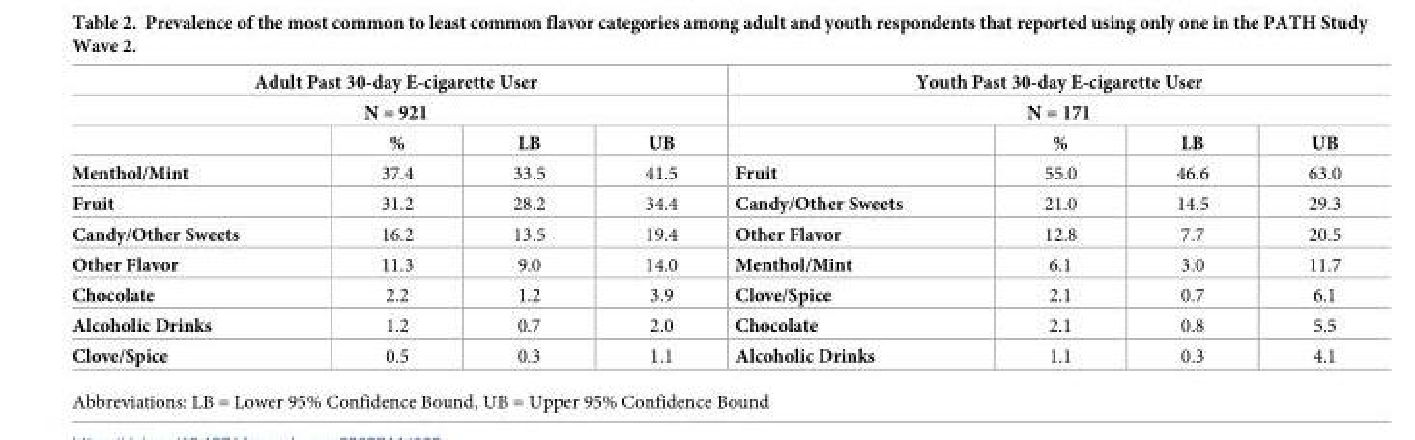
<table><thead><tr><td rowspan="2" colspan="4">Adult Past 30-day E-cigarette User N = 921</td><td rowspan="2" colspan="4">Youth Past 30-day E-cigarette User N = 171</td></tr><tr></tr><tr><td></td><td>%</td><td>LB</td><td>UB</td><td></td><td>%</td><td>LB</td><td>UB</td></tr></thead><tbody><tr><td>Menthol/Mint</td><td>37.4</td><td>33.5</td><td>41.5</td><td>Fruit</td><td>55.0</td><td>46.6</td><td>63.0</td></tr><tr><td>Fruit</td><td>31.2</td><td>28.2</td><td>34.4</td><td>Candy/Other Sweets</td><td>21.0</td><td>14.5</td><td>29.3</td></tr><tr><td>Candy/Other Sweets</td><td>16.2</td><td>13.5</td><td>19.4</td><td>Other Flavor</td><td>12.8</td><td>7.7</td><td>20.5</td></tr><tr><td>Other Flavor</td><td>11.3</td><td>9.0</td><td>14.0</td><td>Menthol/Mint</td><td>6.1</td><td>3.0</td><td>11.7</td></tr><tr><td>Chocolate</td><td>2.2</td><td>1.2</td><td>3.9</td><td>Clove/Spice</td><td>2.1</td><td>0.7</td><td>6.1</td></tr><tr><td>Alcoholic Drinks</td><td>1.2</td><td>0.7</td><td>2.0</td><td>Chocolate</td><td>2.1</td><td>0.8</td><td>5.5</td></tr><tr><td>Clove/Spice</td><td>0.5</td><td>0.3</td><td>1.1</td><td>Alcoholic Drinks</td><td>1.1</td><td>0.3</td><td>4.1</td></tr></tbody></table>